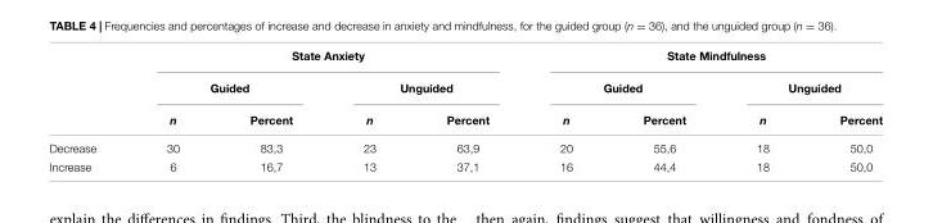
<table><thead><tr><td rowspan="3"></td><td colspan="4">State Anxiety</td><td colspan="4">State Mindfulness</td></tr><tr><td colspan="2">Guided</td><td colspan="2">Unguided</td><td colspan="2">Guided</td><td colspan="2">Unguided</td></tr><tr><td>n</td><td>Percent</td><td>n</td><td>Percent</td><td>n</td><td>Percent</td><td>n</td><td>Percent</td></tr></thead><tbody><tr><td>Decrease</td><td>30</td><td>83,3</td><td>23</td><td>63,9</td><td>20</td><td>55,6</td><td>18</td><td>50,0</td></tr><tr><td>Increase</td><td>6</td><td>16,7</td><td>13</td><td>37,1</td><td>16</td><td>44,4</td><td>18</td><td>50,0</td></tr></tbody></table>